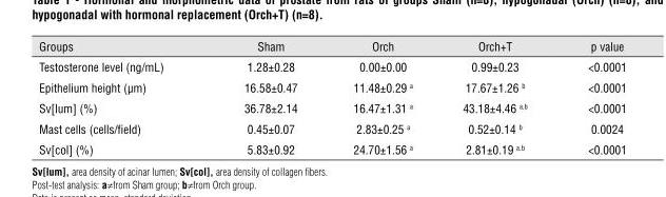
<table><thead><tr><td>Groups</td><td>Sham</td><td>Orch</td><td>Orch+T</td><td>p value</td></tr></thead><tbody><tr><td>Testosterone level (ng/mL)</td><td>1.28±0.28</td><td>0.00±0.00</td><td>0.99±0.23</td><td>&lt;0.0001</td></tr><tr><td>Epithelium height (µm)</td><td>16.58±0.47</td><td>11.48±0.29 a</td><td>17.67±1.26 b</td><td>&lt;0.0001</td></tr><tr><td>Sv[lum] (%)</td><td>36.78±2.14</td><td>16.47±1.31 a</td><td>43.18±4.46 a,b</td><td>&lt;0.0001</td></tr><tr><td>Mast cells (cells/field)</td><td>0.45±0.07</td><td>2.83±0.25 a</td><td>0.52±0.14 b</td><td>0.0024</td></tr><tr><td>Sv[col] (%)</td><td>5.83±0.92</td><td>24.70±1.56 a</td><td>2.81±0.19 a,b</td><td>&lt;0.0001</td></tr></tbody></table>